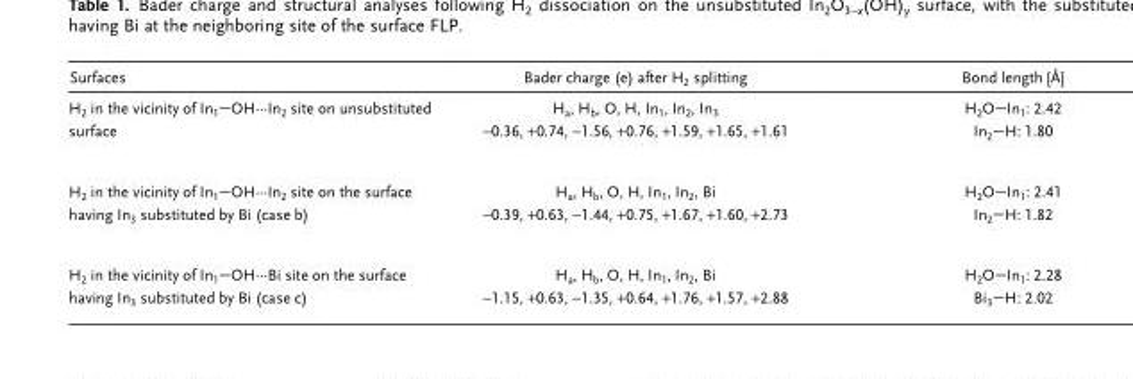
<table><thead><tr><td>Surfaces</td><td>Bader charge (e) after H<sub>2</sub> splitting</td><td>Bond length [Å]</td></tr></thead><tbody><tr><td>H<sub>2</sub> in the vicinity of In<sub>1</sub>—OH···In<sub>2</sub> site on unsubstituted surface</td><td>H<sub>a</sub>, H<sub>b</sub>, O, H, In<sub>1</sub>, In<sub>2</sub>, In<sub>3</sub> −0.36, +0.74, −1.56, +0.76, +1.59, +1.65, +1.61</td><td>H<sub>2</sub>O—In<sub>1</sub>: 2.42 In<sub>2</sub>—H: 1.80</td></tr><tr><td>H<sub>2</sub> in the vicinity of In<sub>1</sub>—OH···In<sub>2</sub> site on the surface having In<sub>3</sub> substituted by Bi (case b)</td><td>H<sub>a</sub>, H<sub>b</sub>, O, H, In<sub>1</sub>, In<sub>2</sub>, Bi −0.39, +0.63, −1.44, +0.75, +1.67, +1.60, +2.73</td><td>H<sub>2</sub>O—In<sub>1</sub>: 2.41 In<sub>2</sub>—H: 1.82</td></tr><tr><td>H<sub>2</sub> in the vicinity of In<sub>1</sub>—OH···Bi site on the surface having In<sub>3</sub> substituted by Bi (case c)</td><td>H<sub>a</sub>, H<sub>b</sub>, O, H, In<sub>1</sub>, In<sub>2</sub>, Bi −1.15, +0.63, −1.35, +0.64, +1.76, +1.57, +2.88</td><td>H<sub>2</sub>O—In<sub>1</sub>: 2.28 Bi<sub>3</sub>—H: 2.02</td></tr></tbody></table>